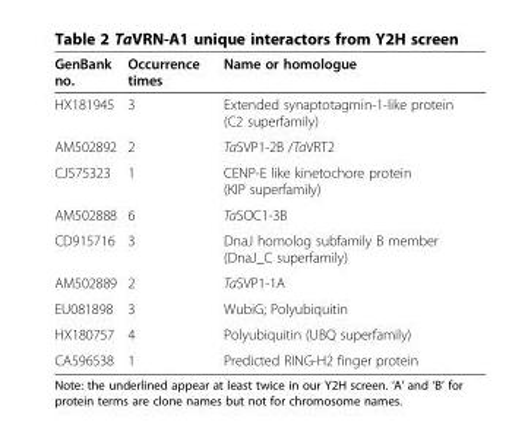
<table><thead><tr><td>GenBank no.</td><td>Occurrence times</td><td>Name or homologue</td></tr></thead><tbody><tr><td>HX181945</td><td>3</td><td>Extended synaptotagmin-1-like protein (C2 superfamily)</td></tr><tr><td>AM502892</td><td>2</td><td>TaSVP1-2B /TaVRT2</td></tr><tr><td>CJ575323</td><td>1</td><td>CENP-E like kinetochore protein (KIP superfamily)</td></tr><tr><td>AM502888</td><td>6</td><td>TaSOC1-3B</td></tr><tr><td>CD915716</td><td>3</td><td>DnaJ homolog subfamily B member (DnaJ_C superfamily)</td></tr><tr><td>AM502889</td><td>2</td><td>TaSVP1-1A</td></tr><tr><td>EU081898</td><td>3</td><td>WubiG; Polyubiquitin</td></tr><tr><td>HX180757</td><td>4</td><td>Polyubiquitin (UBQ superfamily)</td></tr><tr><td>CA596538</td><td>1</td><td>Predicted RING-H2 finger protein</td></tr></tbody></table>